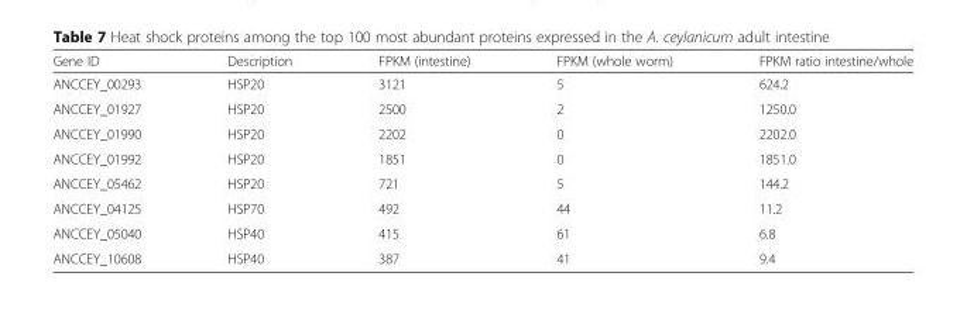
<table><thead><tr><td>Gene ID</td><td>Description</td><td>FPKM (intestine)</td><td>FPKM (whole worm)</td><td>FPKM ratio intestine/whole</td></tr></thead><tbody><tr><td>ANCCEY_00293</td><td>HSP20</td><td>3121</td><td>5</td><td>624.2</td></tr><tr><td>ANCCEY_01927</td><td>HSP20</td><td>2500</td><td>2</td><td>1250.0</td></tr><tr><td>ANCCEY_01990</td><td>HSP20</td><td>2202</td><td>0</td><td>2202.0</td></tr><tr><td>ANCCEY_01992</td><td>HSP20</td><td>1851</td><td>0</td><td>1851.0</td></tr><tr><td>ANCCEY_05462</td><td>HSP20</td><td>721</td><td>5</td><td>144.2</td></tr><tr><td>ANCCEY_04125</td><td>HSP70</td><td>492</td><td>44</td><td>11.2</td></tr><tr><td>ANCCEY_05040</td><td>HSP40</td><td>415</td><td>61</td><td>6.8</td></tr><tr><td>ANCCEY_10608</td><td>HSP40</td><td>387</td><td>41</td><td>9.4</td></tr></tbody></table>